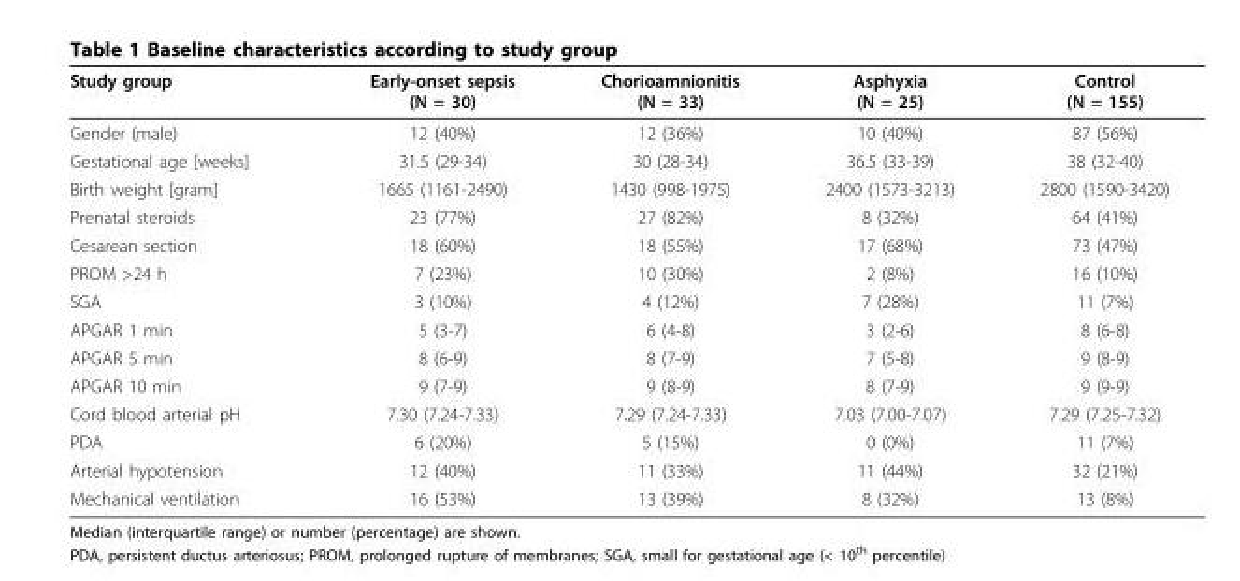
<table><thead><tr><td>Study group</td><td>Early-onset sepsis (N = 30)</td><td>Chorioamnionitis (N = 33)</td><td>Asphyxia (N = 25)</td><td>Control (N = 155)</td></tr></thead><tbody><tr><td>Gender (male)</td><td>12 (40%)</td><td>12 (36%)</td><td>10 (40%)</td><td>87 (56%)</td></tr><tr><td>Gestational age [weeks]</td><td>31.5 (29-34)</td><td>30 (28-34)</td><td>36.5 (33-39)</td><td>38 (32-40)</td></tr><tr><td>Birth weight [gram]</td><td>1665 (1161-2490)</td><td>1430 (998-1975)</td><td>2400 (1573-3213)</td><td>2800 (1590-3420)</td></tr><tr><td>Prenatal steroids</td><td>23 (77%)</td><td>27 (82%)</td><td>8 (32%)</td><td>64 (41%)</td></tr><tr><td>Cesarean section</td><td>18 (60%)</td><td>18 (55%)</td><td>17 (68%)</td><td>73 (47%)</td></tr><tr><td>PROM &gt;24 h</td><td>7 (23%)</td><td>10 (30%)</td><td>2 (8%)</td><td>16 (10%)</td></tr><tr><td>SGA</td><td>3 (10%)</td><td>4 (12%)</td><td>7 (28%)</td><td>11 (7%)</td></tr><tr><td>APGAR 1 min</td><td>5 (3-7)</td><td>6 (4-8)</td><td>3 (2-6)</td><td>8 (6-8)</td></tr><tr><td>APGAR 5 min</td><td>8 (6-9)</td><td>8 (7-9)</td><td>7 (5-8)</td><td>9 (8-9)</td></tr><tr><td>APGAR 10 min</td><td>9 (7-9)</td><td>9 (8-9)</td><td>8 (7-9)</td><td>9 (9-9)</td></tr><tr><td>Cord blood arterial pH</td><td>7.30 (7.24-7.33)</td><td>7.29 (7.24-7.33)</td><td>7.03 (7.00-7.07)</td><td>7.29 (7.25-7.32)</td></tr><tr><td>PDA</td><td>6 (20%)</td><td>5 (15%)</td><td>0 (0%)</td><td>11 (7%)</td></tr><tr><td>Arterial hypotension</td><td>12 (40%)</td><td>11 (33%)</td><td>11 (44%)</td><td>32 (21%)</td></tr><tr><td>Mechanical ventilation</td><td>16 (53%)</td><td>13 (39%)</td><td>8 (32%)</td><td>13 (8%)</td></tr></tbody></table>